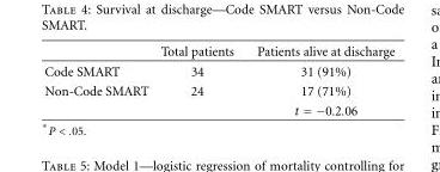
<table><thead><tr><td></td><td>Total patients</td><td>Patients alive at discharge</td></tr></thead><tbody><tr><td>Code SMART</td><td>34</td><td>31 (91%)</td></tr><tr><td rowspan="2">Non-Code SMART</td><td>24</td><td>17 (71%)</td></tr><tr><td></td><td>t = −0.2.06</td></tr></tbody></table>